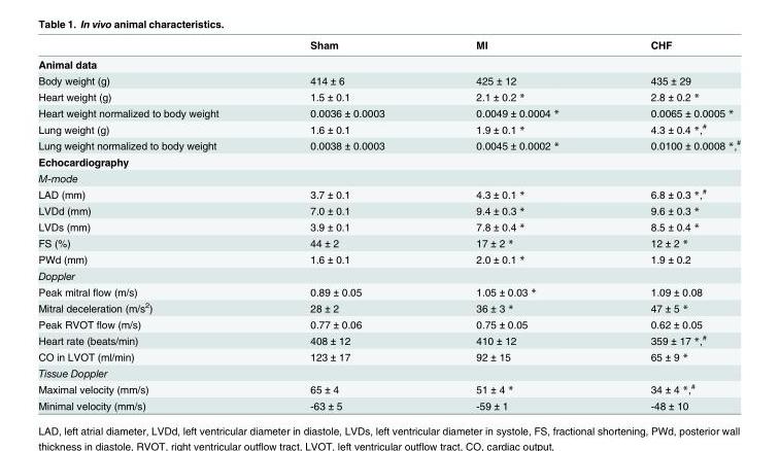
<table><thead><tr><td></td><td>Sham</td><td>MI</td><td>CHF</td></tr></thead><tbody><tr><td colspan="4">Animal data</td></tr><tr><td>Body weight (g)</td><td>414 ± 6</td><td>425 ± 12</td><td>435 ± 29</td></tr><tr><td>Heart weight (g)</td><td>1.5 ± 0.1</td><td>2.1 ± 0.2 *</td><td>2.8 ± 0.2 *</td></tr><tr><td>Heart weight normalized to body weight</td><td>0.0036 ± 0.0003</td><td>0.0049 ± 0.0004 *</td><td>0.0065 ± 0.0005 *</td></tr><tr><td>Lung weight (g)</td><td>1.6 ± 0.1</td><td>1.9 ± 0.1 *</td><td>4.3 ± 0.4 *,<sup>#</sup></td></tr><tr><td>Lung weight normalized to body weight</td><td>0.0038 ± 0.0003</td><td>0.0045 ± 0.0002 *</td><td>0.0100 ± 0.0008 *,<sup>#</sup></td></tr><tr><td colspan="4">Echocardiography</td></tr><tr><td colspan="4">M-mode</td></tr><tr><td>LAD (mm)</td><td>3.7 ± 0.1</td><td>4.3 ± 0.1 *</td><td>6.8 ± 0.3 *,<sup>#</sup></td></tr><tr><td>LVDd (mm)</td><td>7.0 ± 0.1</td><td>9.4 ± 0.3 *</td><td>9.6 ± 0.3 *</td></tr><tr><td>LVDs (mm)</td><td>3.9 ± 0.1</td><td>7.8 ± 0.4 *</td><td>8.5 ± 0.4 *</td></tr><tr><td>FS (%)</td><td>44 ± 2</td><td>17 ± 2 *</td><td>12 ± 2 *</td></tr><tr><td>PWd (mm)</td><td>1.6 ± 0.1</td><td>2.0 ± 0.1 *</td><td>1.9 ± 0.2</td></tr><tr><td colspan="4">Doppler</td></tr><tr><td>Peak mitral flow (m/s)</td><td>0.89 ± 0.05</td><td>1.05 ± 0.03 *</td><td>1.09 ± 0.08</td></tr><tr><td>Mitral deceleration (m/s<sup>2</sup>)</td><td>28 ± 2</td><td>36 ± 3 *</td><td>47 ± 5 *</td></tr><tr><td>Peak RVOT flow (m/s)</td><td>0.77 ± 0.06</td><td>0.75 ± 0.05</td><td>0.62 ± 0.05</td></tr><tr><td>Heart rate (beats/min)</td><td>408 ± 12</td><td>410 ± 12</td><td>359 ± 17 *,<sup>#</sup></td></tr><tr><td>CO in LVOT (ml/min)</td><td>123 ± 17</td><td>92 ± 15</td><td>65 ± 9 *</td></tr><tr><td colspan="4">Tissue Doppler</td></tr><tr><td>Maximal velocity (mm/s)</td><td>65 ± 4</td><td>51 ± 4 *</td><td>34 ± 4 *,<sup>#</sup></td></tr><tr><td>Minimal velocity (mm/s)</td><td>-63 ± 5</td><td>-59 ± 1</td><td>-48 ± 10</td></tr></tbody></table>